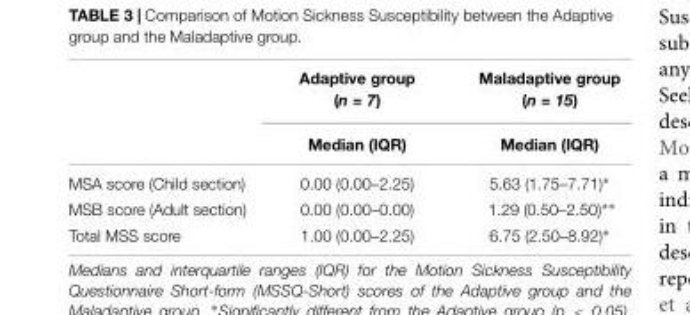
<table><thead><tr><td rowspan="2"></td><td rowspan="2">Adaptive group (n = 7) Median (IQR)</td><td rowspan="2">Maladaptive group (n = 15) Median (IQR)</td></tr><tr></tr></thead><tbody><tr><td>MSA score (Child section)</td><td>0.00 (0.00–2.25)</td><td>5.63 (1.75–7.71)∗</td></tr><tr><td>MSB score (Adult section)</td><td>0.00 (0.00–0.00)</td><td>1.29 (0.50–2.50)∗∗</td></tr><tr><td>Total MSS score</td><td>1.00 (0.00–2.25)</td><td>6.75 (2.50–8.92)∗</td></tr></tbody></table>